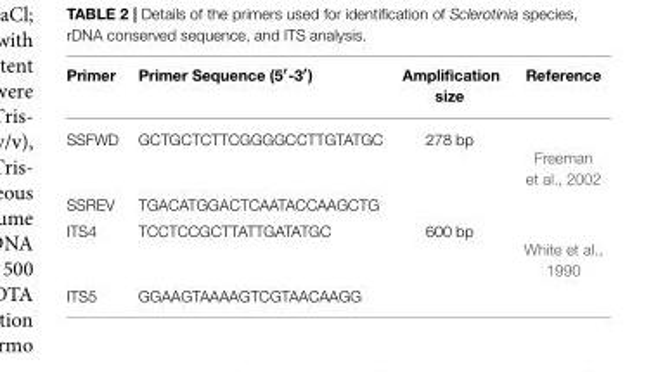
<table><thead><tr><td>Primer</td><td>Primer Sequence (5<sup>′</sup>-3<sup>′</sup>)</td><td>Amplification size</td><td>Reference</td></tr></thead><tbody><tr><td>SSFWD</td><td>GCTGCTCTTCGGGGCCTTGTATGC</td><td>278 bp</td><td>Freeman et al., 2002</td></tr><tr><td>SSREV</td><td>TGACATGGACTCAATACCAAGCTG</td><td></td><td></td></tr><tr><td>ITS4</td><td>TCCTCCGCTTATTGATATGC</td><td>600 bp</td><td>White et al., 1990</td></tr><tr><td>ITS5</td><td>GGAAGTAAAAGTCGTAACAAGG</td><td></td><td></td></tr></tbody></table>